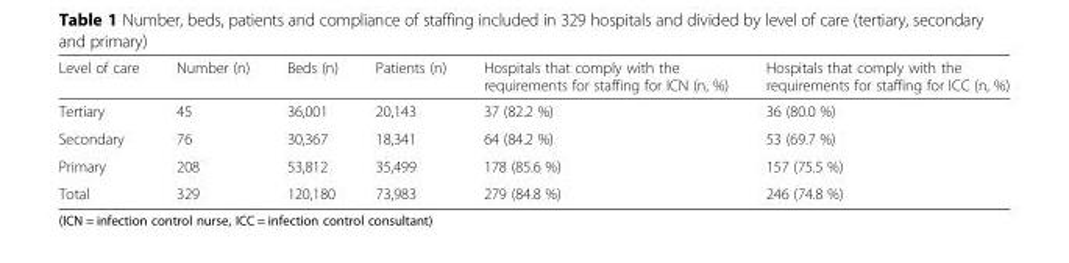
<table><thead><tr><td>Level of care</td><td>Number (n)</td><td>Beds (n)</td><td>Patients (n)</td><td>Hospitals that comply with the requirements for staffing for ICN (n, %)</td><td>Hospitals that comply with the requirements for staffing for ICC (n, %)</td></tr></thead><tbody><tr><td>Tertiary</td><td>45</td><td>36,001</td><td>20,143</td><td>37 (82.2 %)</td><td>36 (80.0 %)</td></tr><tr><td>Secondary</td><td>76</td><td>30,367</td><td>18,341</td><td>64 (84.2 %)</td><td>53 (69.7 %)</td></tr><tr><td>Primary</td><td>208</td><td>53,812</td><td>35,499</td><td>178 (85.6 %)</td><td>157 (75.5 %)</td></tr><tr><td>Total</td><td>329</td><td>120,180</td><td>73,983</td><td>279 (84.8 %)</td><td>246 (74.8 %)</td></tr></tbody></table>